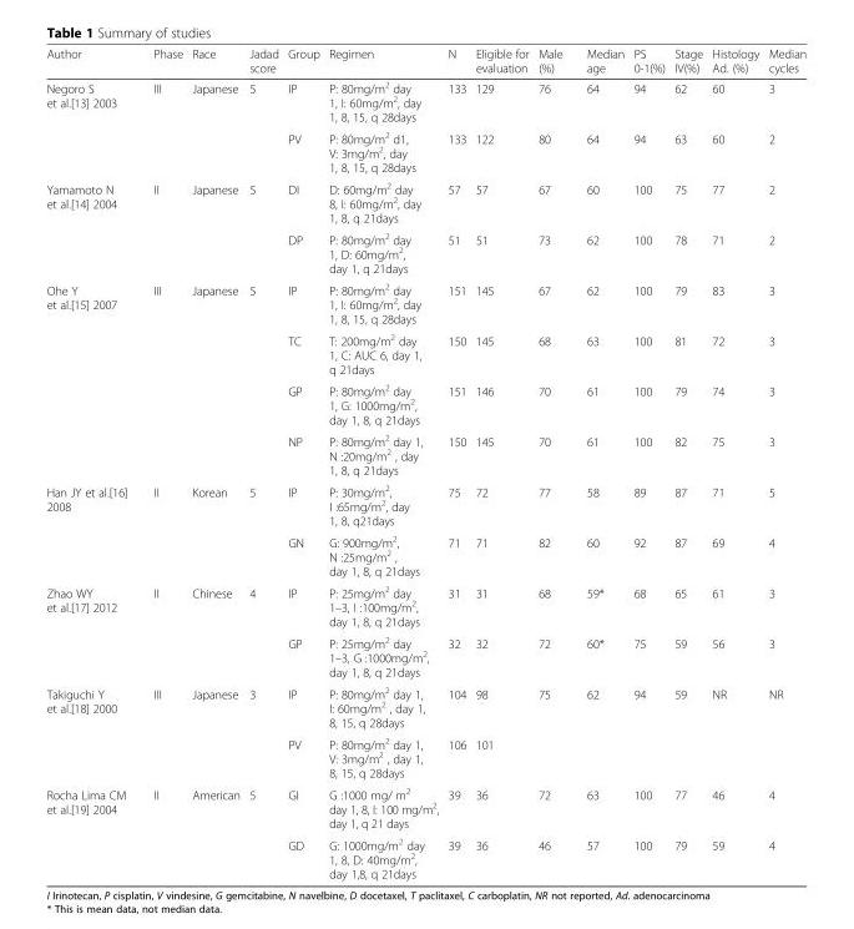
<table><thead><tr><td>Author</td><td>Phase</td><td>Race</td><td>Jadad score</td><td>Group</td><td>Regimen</td><td>N</td><td>Eligible for evaluation</td><td>Male (%)</td><td>Median age</td><td>PS 0-1(%)</td><td>Stage IV(%)</td><td>Histology Ad. (%)</td><td>Median cycles</td></tr></thead><tbody><tr><td rowspan="2">Negoro S et al.[13] 2003</td><td rowspan="2">III</td><td rowspan="2">Japanese</td><td rowspan="2">5</td><td>IP</td><td>P: 80mg/m<sup>2</sup> day 1, I: 60mg/m<sup>2</sup>, day 1, 8, 15, q 28days</td><td>133</td><td>129</td><td>76</td><td>64</td><td>94</td><td>62</td><td>60</td><td>3</td></tr><tr><td>PV</td><td>P: 80mg/m<sup>2</sup> d1, V: 3mg/m<sup>2</sup>, day 1, 8, 15, q 28days</td><td>133</td><td>122</td><td>80</td><td>64</td><td>94</td><td>63</td><td>60</td><td>2</td></tr><tr><td rowspan="2">Yamamoto N et al.[14] 2004</td><td rowspan="2">II</td><td rowspan="2">Japanese</td><td rowspan="2">5</td><td>DI</td><td>D: 60mg/m<sup>2</sup> day 8, I: 60mg/m<sup>2</sup>, day 1, 8, q 21days</td><td>57</td><td>57</td><td>67</td><td>60</td><td>100</td><td>75</td><td>77</td><td>2</td></tr><tr><td>DP</td><td>P: 80mg/m<sup>2</sup> day 1, D: 60mg/m<sup>2</sup>, day 1, q 21days</td><td>51</td><td>51</td><td>73</td><td>62</td><td>100</td><td>78</td><td>71</td><td>2</td></tr><tr><td rowspan="4">Ohe Y et al.[15] 2007</td><td rowspan="4">III</td><td rowspan="4">Japanese</td><td rowspan="4">5</td><td>IP</td><td>P: 80mg/m<sup>2</sup> day 1, I: 60mg/m<sup>2</sup>, day 1, 8, 15, q 28days</td><td>151</td><td>145</td><td>67</td><td>62</td><td>100</td><td>79</td><td>83</td><td>3</td></tr><tr><td>TC</td><td>T: 200mg/m<sup>2</sup> day 1, C: AUC 6, day 1, q 21days</td><td>150</td><td>145</td><td>68</td><td>63</td><td>100</td><td>81</td><td>72</td><td>3</td></tr><tr><td>GP</td><td>P: 80mg/m<sup>2</sup> day 1, G: 1000mg/m<sup>2</sup>, day 1, 8, q 21days</td><td>151</td><td>146</td><td>70</td><td>61</td><td>100</td><td>79</td><td>74</td><td>3</td></tr><tr><td>NP</td><td>P: 80mg/m<sup>2</sup> day 1, N :20mg/m<sup>2</sup> , day 1, 8, q 21days</td><td>150</td><td>145</td><td>70</td><td>61</td><td>100</td><td>82</td><td>75</td><td>3</td></tr><tr><td rowspan="2">Han JY et al.[16] 2008</td><td rowspan="2">II</td><td rowspan="2">Korean</td><td rowspan="2">5</td><td>IP</td><td>P: 30mg/m<sup>2</sup>, I :65mg/m<sup>2</sup>, day 1, 8, q21days</td><td>75</td><td>72</td><td>77</td><td>58</td><td>89</td><td>87</td><td>71</td><td>5</td></tr><tr><td>GN</td><td>G: 900mg/m<sup>2</sup>, N :25mg/m<sup>2</sup> , day 1, 8, q 21days</td><td>71</td><td>71</td><td>82</td><td>60</td><td>92</td><td>87</td><td>69</td><td>4</td></tr><tr><td rowspan="2">Zhao WY et al.[17] 2012</td><td rowspan="2">II</td><td rowspan="2">Chinese</td><td rowspan="2">4</td><td>IP</td><td>P: 25mg/m<sup>2</sup> day 1–3, I :100mg/m<sup>2</sup>, day 1, 8, q 21days</td><td>31</td><td>31</td><td>68</td><td>59*</td><td>68</td><td>65</td><td>61</td><td>3</td></tr><tr><td>GP</td><td>P: 25mg/m<sup>2</sup> day 1–3, G :1000mg/m<sup>2</sup>, day 1, 8, q 21days</td><td>32</td><td>32</td><td>72</td><td>60*</td><td>75</td><td>59</td><td>56</td><td>3</td></tr><tr><td rowspan="2">Takiguchi Y et al.[18] 2000</td><td rowspan="2">III</td><td rowspan="2">Japanese</td><td rowspan="2">3</td><td>IP</td><td>P: 80mg/m<sup>2</sup> day 1, I: 60mg/m<sup>2</sup> , day 1, 8, 15, q 28days</td><td>104</td><td>98</td><td rowspan="2">75</td><td rowspan="2">62</td><td rowspan="2">94</td><td rowspan="2">59</td><td rowspan="2">NR</td><td rowspan="2">NR</td></tr><tr><td>PV</td><td>P: 80mg/m<sup>2</sup> day 1, V: 3mg/m<sup>2</sup> , day 1, 8, 15, q 28days</td><td>106</td><td>101</td></tr><tr><td rowspan="2">Rocha Lima CM et al.[19] 2004</td><td rowspan="2">II</td><td rowspan="2">American</td><td rowspan="2">5</td><td>GI</td><td>G :1000 mg/ m<sup>2</sup> day 1, 8, I: 100 mg/m<sup>2</sup>, day 1, q 21 days</td><td>39</td><td>36</td><td>72</td><td>63</td><td>100</td><td>77</td><td>46</td><td>4</td></tr><tr><td>GD</td><td>G: 1000mg/m<sup>2</sup> day 1, 8, D: 40mg/m<sup>2</sup>, day 1,8, q 21days</td><td>39</td><td>36</td><td>46</td><td>57</td><td>100</td><td>79</td><td>59</td><td>4</td></tr></tbody></table>